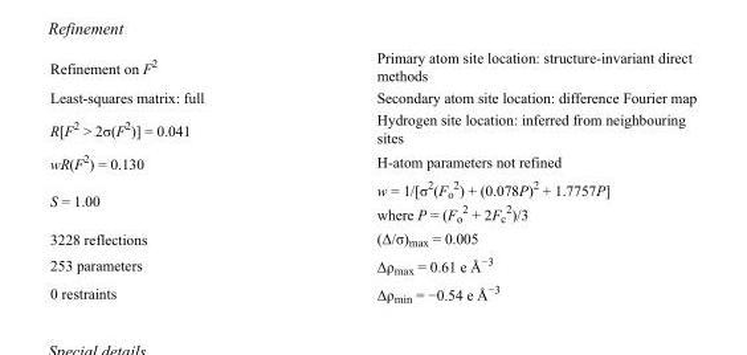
<table><tbody><tr><td>Refinement on F<sup>2</sup></td><td>Primary atom site location: structure-invariant direct methods</td></tr><tr><td>Least-squares matrix: full</td><td>Secondary atom site location: difference Fourier map</td></tr><tr><td>R[F<sup>2</sup> &gt; 2σ(F<sup>2</sup>)] = 0.041</td><td>Hydrogen site location: inferred from neighbouring sites</td></tr><tr><td>wR(F<sup>2</sup>) = 0.130</td><td>H-atom parameters not refined</td></tr><tr><td>S = 1.00</td><td>w = 1/[σ<sup>2</sup>(F<sub>o</sub> <sup>2</sup>) + (0.078P)<sup>2</sup> + 1.7757P] where P = (F<sub>o</sub> <sup>2</sup> + 2F<sub>c</sub> <sup>2</sup>)/3</td></tr><tr><td>3228 reflections</td><td>(Δ/σ)<sub>max</sub> = 0.005</td></tr><tr><td>253 parameters</td><td>Δρ<sub>max</sub> = 0.61 e Å<sup>−3</sup></td></tr><tr><td>0 restraints</td><td>Δρ<sub>min</sub> = −0.54 e Å<sup>−3</sup></td></tr></tbody></table>